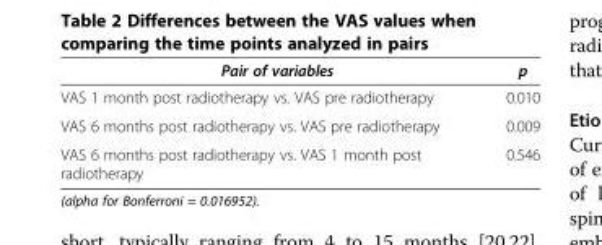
<table><thead><tr><td>Pair of variables</td><td>p</td></tr></thead><tbody><tr><td>VAS 1 month post radiotherapy vs. VAS pre radiotherapy</td><td>0.010</td></tr><tr><td>VAS 6 months post radiotherapy vs. VAS pre radiotherapy</td><td>0.009</td></tr><tr><td>VAS 6 months post radiotherapy vs. VAS 1 month post radiotherapy</td><td>0.546</td></tr></tbody></table>